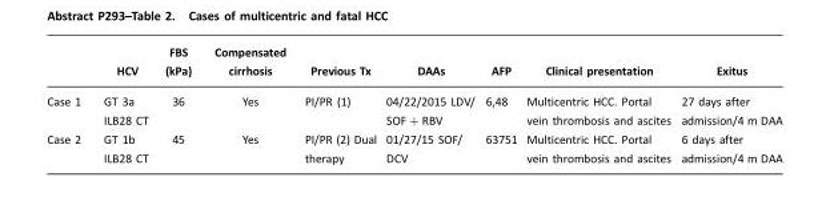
<table><thead><tr><td></td><td>HCV</td><td>FBS (kPa)</td><td>Compensated cirrhosis</td><td>Previous Tx</td><td>DAAs</td><td>AFP</td><td>Clinical presentation</td><td>Exitus</td></tr></thead><tbody><tr><td>Case 1</td><td>GT 3a ILB28 CT</td><td>36</td><td>Yes</td><td>PI/PR (1)</td><td>04/22/2015 LDV/ SOF+RBV</td><td>6,48</td><td>Multicentric HCC. Portal vein thrombosis and ascites</td><td>27 days after admission/4 m DAA</td></tr><tr><td>Case 2</td><td>GT 1b ILB28 CT</td><td>45</td><td>Yes</td><td>PI/PR (2) Dual therapy</td><td>01/27/15 SOF/ DCV</td><td>63751</td><td>Multicentric HCC. Portal vein thrombosis and ascites</td><td>6 days after admission/4 m DAA</td></tr></tbody></table>